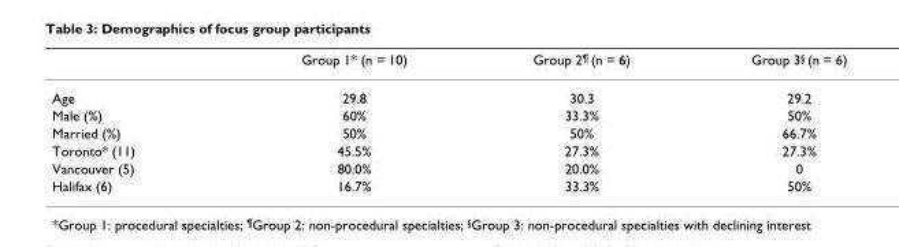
<table><thead><tr><td></td><td>Group 1* (n = 10)</td><td>Group 2<sup>¶</sup> (n = 6)</td><td>Group 3<sup>§</sup> (n = 6)</td></tr></thead><tbody><tr><td>Age</td><td>29.8</td><td>30.3</td><td>29.2</td></tr><tr><td>Male (%)</td><td>60%</td><td>33.3%</td><td>50%</td></tr><tr><td>Married (%)</td><td>50%</td><td>50%</td><td>66.7%</td></tr><tr><td>Toronto* (11)</td><td>45.5%</td><td>27.3%</td><td>27.3%</td></tr><tr><td>Vancouver (5)</td><td>80.0%</td><td>20.0%</td><td>0</td></tr><tr><td>Halifax (6)</td><td>16.7%</td><td>33.3%</td><td>50%</td></tr></tbody></table>